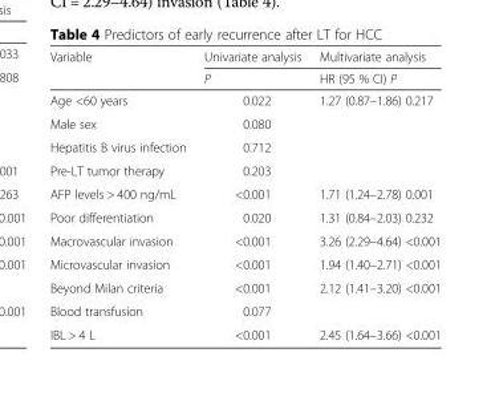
<table><thead><tr><td rowspan="2">Variable</td><td rowspan="2">Univariate analysis P</td><td rowspan="2">Multivariate analysis HR (95 % CI) P</td></tr><tr></tr></thead><tbody><tr><td>Age &lt;60 years</td><td>0.022</td><td>1.27 (0.87–1.86) 0.217</td></tr><tr><td>Male sex</td><td>0.080</td><td></td></tr><tr><td>Hepatitis B virus infection</td><td>0.712</td><td></td></tr><tr><td>Pre-LT tumor therapy</td><td>0.203</td><td></td></tr><tr><td>AFP levels &gt; 400 ng/mL</td><td>&lt;0.001</td><td>1.71 (1.24–2.78) 0.001</td></tr><tr><td>Poor differentiation</td><td>0.020</td><td>1.31 (0.84–2.03) 0.232</td></tr><tr><td>Macrovascular invasion</td><td>&lt;0.001</td><td>3.26 (2.29–4.64) &lt;0.001</td></tr><tr><td>Microvascular invasion</td><td>&lt;0.001</td><td>1.94 (1.40–2.71) &lt;0.001</td></tr><tr><td>Beyond Milan criteria</td><td>&lt;0.001</td><td>2.12 (1.41–3.20) &lt;0.001</td></tr><tr><td>Blood transfusion</td><td>0.077</td><td></td></tr><tr><td>IBL &gt; 4 L</td><td>&lt;0.001</td><td>2.45 (1.64–3.66) &lt;0.001</td></tr></tbody></table>